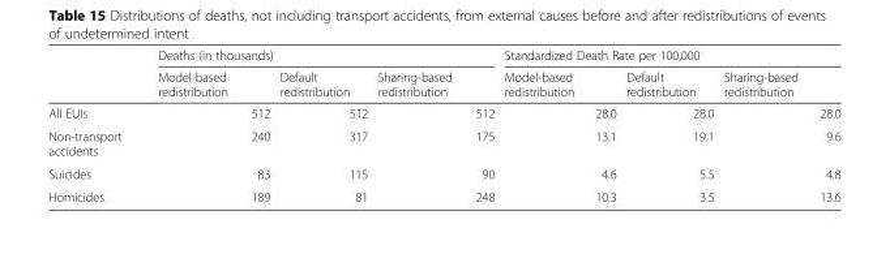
<table><thead><tr><td rowspan="2"></td><td colspan="3">Deaths (in thousands)</td><td colspan="3">Standardized Death Rate per 100,000</td></tr><tr><td>Model-based redistribution</td><td>Default redistribution</td><td>Sharing-based redistribution</td><td>Model-based redistribution</td><td>Default redistribution</td><td>Sharing-based redistribution</td></tr></thead><tbody><tr><td>All EUIs</td><td>512</td><td>512</td><td>512</td><td>28.0</td><td>28.0</td><td>28.0</td></tr><tr><td>Non-transport accidents</td><td>240</td><td>317</td><td>175</td><td>13.1</td><td>19.1</td><td>9.6</td></tr><tr><td>Suicides</td><td>83</td><td>115</td><td>90</td><td>4.6</td><td>5.5</td><td>4.8</td></tr><tr><td>Homicides</td><td>189</td><td>81</td><td>248</td><td>10.3</td><td>3.5</td><td>13.6</td></tr></tbody></table>